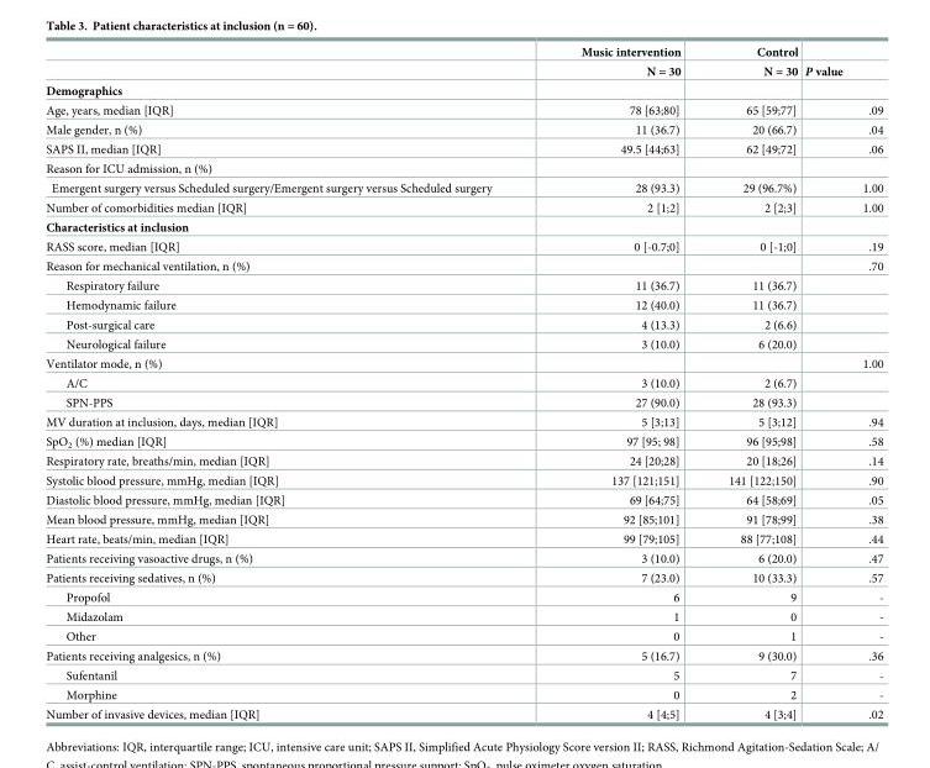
<table><thead><tr><td rowspan="2"></td><td rowspan="2">Music intervention N = 30</td><td rowspan="2">Control N = 30</td><td rowspan="2">P value</td></tr><tr></tr></thead><tbody><tr><td colspan="4">Demographics</td></tr><tr><td>Age, years, median [IQR]</td><td>78 [63;80]</td><td>65 [59;77]</td><td>.09</td></tr><tr><td>Male gender, n (%)</td><td>11 (36.7)</td><td>20 (66.7)</td><td>.04</td></tr><tr><td>SAPS II, median [IQR]</td><td>49.5 [44;63]</td><td>62 [49;72]</td><td>.06</td></tr><tr><td colspan="4">Reason for ICU admission, n (%)</td></tr><tr><td>Emergent surgery versus Scheduled surgery/Emergent surgery versus Scheduled surgery</td><td>28 (93.3)</td><td>29 (96.7%)</td><td>1.00</td></tr><tr><td>Number of comorbidities median [IQR]</td><td>2 [1;2]</td><td>2 [2;3]</td><td>1.00</td></tr><tr><td colspan="4">Characteristics at inclusion</td></tr><tr><td>RASS score, median [IQR]</td><td>0 [-0.7;0]</td><td>0 [-1;0]</td><td>.19</td></tr><tr><td>Reason for mechanical ventilation, n (%)</td><td></td><td></td><td>.70</td></tr><tr><td>Respiratory failure</td><td>11 (36.7)</td><td>11 (36.7)</td><td></td></tr><tr><td>Hemodynamic failure</td><td>12 (40.0)</td><td>11 (36.7)</td><td></td></tr><tr><td>Post-surgical care</td><td>4 (13.3)</td><td>2 (6.6)</td><td></td></tr><tr><td>Neurological failure</td><td>3 (10.0)</td><td>6 (20.0)</td><td></td></tr><tr><td>Ventilator mode, n (%)</td><td></td><td></td><td>1.00</td></tr><tr><td>A/C</td><td>3 (10.0)</td><td>2 (6.7)</td><td></td></tr><tr><td>SPN-PPS</td><td>27 (90.0)</td><td>28 (93.3)</td><td></td></tr><tr><td>MV duration at inclusion, days, median [IQR]</td><td>5 [3;13]</td><td>5 [3;12]</td><td>.94</td></tr><tr><td>SpO<sub>2</sub> (%) median [IQR]</td><td>97 [95; 98]</td><td>96 [95;98]</td><td>.58</td></tr><tr><td>Respiratory rate, breaths/min, median [IQR]</td><td>24 [20;28]</td><td>20 [18;26]</td><td>.14</td></tr><tr><td>Systolic blood pressure, mmHg, median [IQR]</td><td>137 [121;151]</td><td>141 [122;150]</td><td>.90</td></tr><tr><td>Diastolic blood pressure, mmHg, median [IQR]</td><td>69 [64;75]</td><td>64 [58;69]</td><td>.05</td></tr><tr><td>Mean blood pressure, mmHg, median [IQR]</td><td>92 [85;101]</td><td>91 [78;99]</td><td>.38</td></tr><tr><td>Heart rate, beats/min, median [IQR]</td><td>99 [79;105]</td><td>88 [77;108]</td><td>.44</td></tr><tr><td>Patients receiving vasoactive drugs, n (%)</td><td>3 (10.0)</td><td>6 (20.0)</td><td>.47</td></tr><tr><td>Patients receiving sedatives, n (%)</td><td>7 (23.0)</td><td>10 (33.3)</td><td>.57</td></tr><tr><td>Propofol</td><td>6</td><td>9</td><td>-</td></tr><tr><td>Midazolam</td><td>1</td><td>0</td><td>-</td></tr><tr><td>Other</td><td>0</td><td>1</td><td>-</td></tr><tr><td>Patients receiving analgesics, n (%)</td><td>5 (16.7)</td><td>9 (30.0)</td><td>.36</td></tr><tr><td>Sufentanil</td><td>5</td><td>7</td><td>-</td></tr><tr><td>Morphine</td><td>0</td><td>2</td><td>-</td></tr><tr><td>Number of invasive devices, median [IQR]</td><td>4 [4;5]</td><td>4 [3;4]</td><td>.02</td></tr></tbody></table>